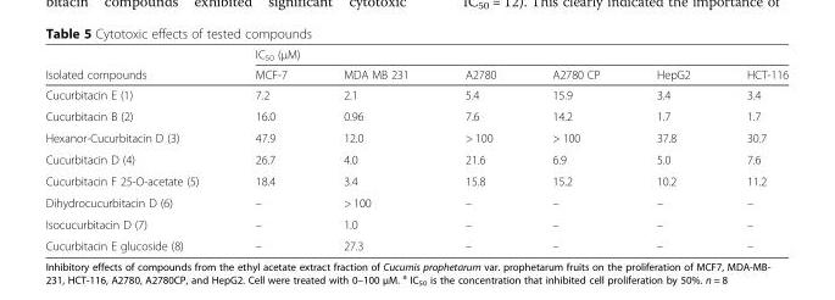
<table><thead><tr><td rowspan="2">Isolated compounds</td><td colspan="6">IC<sub>50</sub> (μM)</td></tr><tr><td>MCF-7</td><td>MDA MB 231</td><td>A2780</td><td>A2780 CP</td><td>HepG2</td><td>HCT-116</td></tr></thead><tbody><tr><td>Cucurbitacin E (1)</td><td>7.2</td><td>2.1</td><td>5.4</td><td>15.9</td><td>3.4</td><td>3.4</td></tr><tr><td>Cucurbitacin B (2)</td><td>16.0</td><td>0.96</td><td>7.6</td><td>14.2</td><td>1.7</td><td>1.7</td></tr><tr><td>Hexanor-Cucurbitacin D (3)</td><td>47.9</td><td>12.0</td><td>&gt; 100</td><td>&gt; 100</td><td>37.8</td><td>30.7</td></tr><tr><td>Cucurbitacin D (4)</td><td>26.7</td><td>4.0</td><td>21.6</td><td>6.9</td><td>5.0</td><td>7.6</td></tr><tr><td>Cucurbitacin F 25-O-acetate (5)</td><td>18.4</td><td>3.4</td><td>15.8</td><td>15.2</td><td>10.2</td><td>11.2</td></tr><tr><td>Dihydrocucurbitacin D (6)</td><td>–</td><td>&gt; 100</td><td>–</td><td>–</td><td>–</td><td>–</td></tr><tr><td>Isocucurbitacin D (7)</td><td>–</td><td>1.0</td><td>–</td><td>–</td><td>–</td><td>–</td></tr><tr><td>Cucurbitacin E glucoside (8)</td><td>–</td><td>27.3</td><td>–</td><td>–</td><td>–</td><td>–</td></tr></tbody></table>